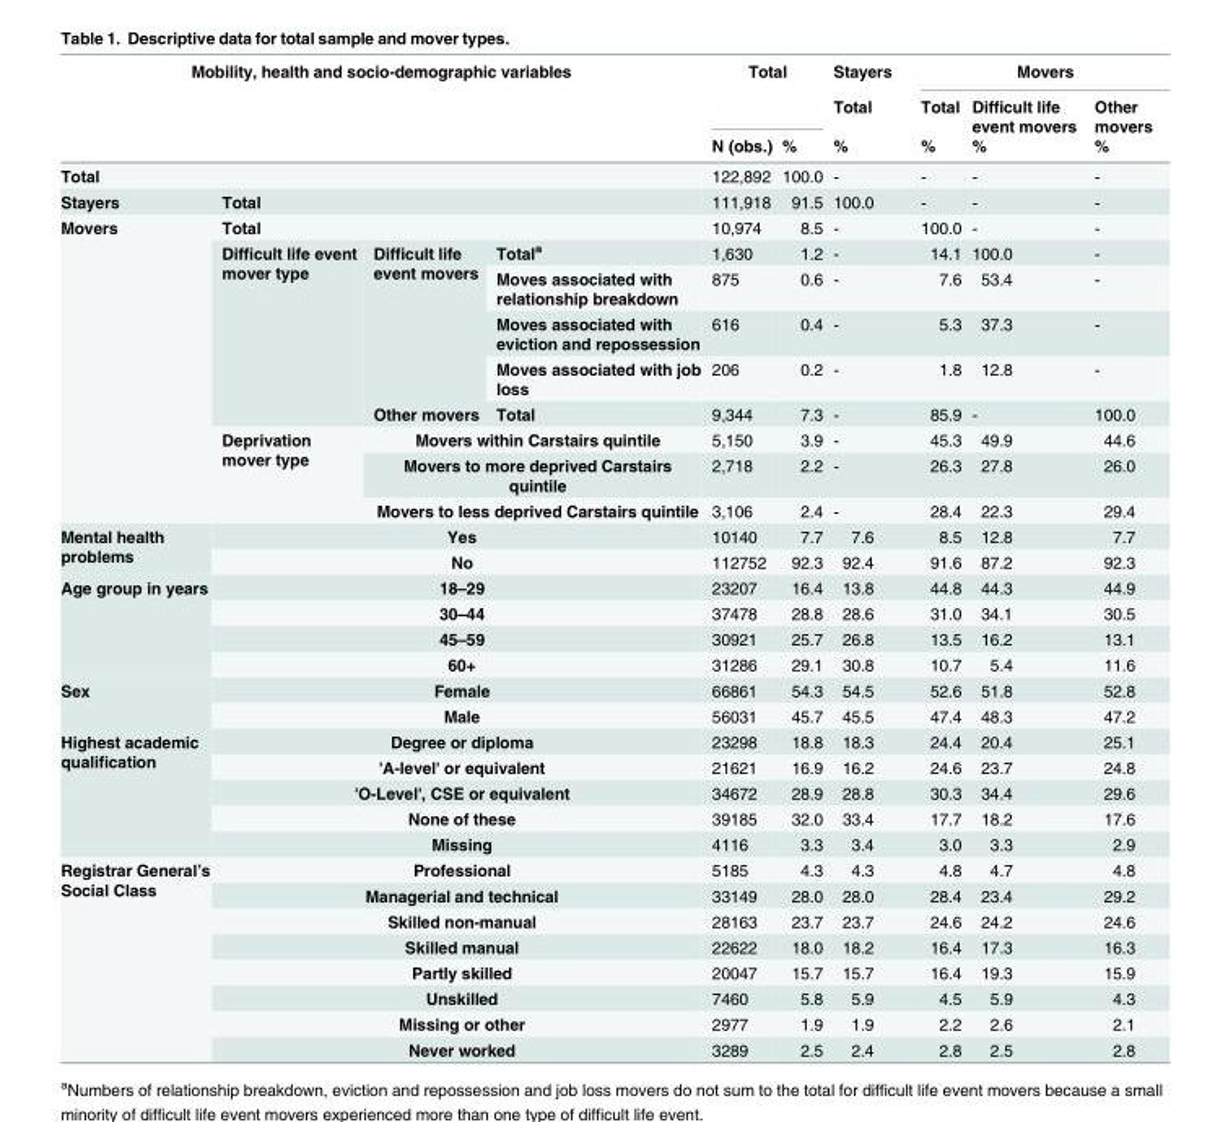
<table><thead><tr><td rowspan="3" colspan="4">Mobility, health and socio-demographic variables</td><td rowspan="2" colspan="2">Total</td><td rowspan="3">Stayers Total %</td><td colspan="3">Movers</td></tr><tr><td rowspan="2">Total %</td><td rowspan="2">Difficult life event movers %</td><td rowspan="2">Other movers %</td></tr><tr><td>N (obs.)</td><td>%</td></tr></thead><tbody><tr><td colspan="4">Total</td><td>122,892</td><td>100.0</td><td>-</td><td>-</td><td>-</td><td>-</td></tr><tr><td>Stayers</td><td colspan="3">Total</td><td>111,918</td><td>91.5</td><td>100.0</td><td>-</td><td>-</td><td>-</td></tr><tr><td rowspan="9">Movers</td><td colspan="3">Total</td><td>10,974</td><td>8.5</td><td>-</td><td>100.0</td><td>-</td><td>-</td></tr><tr><td rowspan="5">Difficult life event mover type</td><td rowspan="4">Difficult life event movers</td><td>Total<sup>a</sup></td><td>1,630</td><td>1.2</td><td>-</td><td>14.1</td><td>100.0</td><td>-</td></tr><tr><td>Moves associated with relationship breakdown</td><td>875</td><td>0.6</td><td>-</td><td>7.6</td><td>53.4</td><td>-</td></tr><tr><td>Moves associated with eviction and repossession</td><td>616</td><td>0.4</td><td>-</td><td>5.3</td><td>37.3</td><td>-</td></tr><tr><td>Moves associated with job loss</td><td>206</td><td>0.2</td><td>-</td><td>1.8</td><td>12.8</td><td>-</td></tr><tr><td>Other movers</td><td>Total</td><td>9,344</td><td>7.3</td><td>-</td><td>85.9</td><td>-</td><td>100.0</td></tr><tr><td rowspan="3">Deprivation mover type</td><td colspan="2">Movers within Carstairs quintile</td><td>5,150</td><td>3.9</td><td>-</td><td>45.3</td><td>49.9</td><td>44.6</td></tr><tr><td colspan="2">Movers to more deprived Carstairs quintile</td><td>2,718</td><td>2.2</td><td>-</td><td>26.3</td><td>27.8</td><td>26.0</td></tr><tr><td colspan="2">Movers to less deprived Carstairs quintile</td><td>3,106</td><td>2.4</td><td>-</td><td>28.4</td><td>22.3</td><td>29.4</td></tr><tr><td rowspan="2">Mental health problems</td><td colspan="3">Yes</td><td>10140</td><td>7.7</td><td>7.6</td><td>8.5</td><td>12.8</td><td>7.7</td></tr><tr><td colspan="3">No</td><td>112752</td><td>92.3</td><td>92.4</td><td>91.6</td><td>87.2</td><td>92.3</td></tr><tr><td rowspan="4">Age group in years</td><td colspan="3">18–29</td><td>23207</td><td>16.4</td><td>13.8</td><td>44.8</td><td>44.3</td><td>44.9</td></tr><tr><td colspan="3">30–44</td><td>37478</td><td>28.8</td><td>28.6</td><td>31.0</td><td>34.1</td><td>30.5</td></tr><tr><td colspan="3">45–59</td><td>30921</td><td>25.7</td><td>26.8</td><td>13.5</td><td>16.2</td><td>13.1</td></tr><tr><td colspan="3">60+</td><td>31286</td><td>29.1</td><td>30.8</td><td>10.7</td><td>5.4</td><td>11.6</td></tr><tr><td rowspan="2">Sex</td><td colspan="3">Female</td><td>66861</td><td>54.3</td><td>54.5</td><td>52.6</td><td>51.8</td><td>52.8</td></tr><tr><td colspan="3">Male</td><td>56031</td><td>45.7</td><td>45.5</td><td>47.4</td><td>48.3</td><td>47.2</td></tr><tr><td rowspan="5">Highest academic qualification</td><td colspan="3">Degree or diploma</td><td>23298</td><td>18.8</td><td>18.3</td><td>24.4</td><td>20.4</td><td>25.1</td></tr><tr><td colspan="3">&#x27;A-level&#x27; or equivalent</td><td>21621</td><td>16.9</td><td>16.2</td><td>24.6</td><td>23.7</td><td>24.8</td></tr><tr><td colspan="3">&#x27;O-Level&#x27;, CSE or equivalent</td><td>34672</td><td>28.9</td><td>28.8</td><td>30.3</td><td>34.4</td><td>29.6</td></tr><tr><td colspan="3">None of these</td><td>39185</td><td>32.0</td><td>33.4</td><td>17.7</td><td>18.2</td><td>17.6</td></tr><tr><td colspan="3">Missing</td><td>4116</td><td>3.3</td><td>3.4</td><td>3.0</td><td>3.3</td><td>2.9</td></tr><tr><td rowspan="8">Registrar General’s Social Class</td><td colspan="3">Professional</td><td>5185</td><td>4.3</td><td>4.3</td><td>4.8</td><td>4.7</td><td>4.8</td></tr><tr><td colspan="3">Managerial and technical</td><td>33149</td><td>28.0</td><td>28.0</td><td>28.4</td><td>23.4</td><td>29.2</td></tr><tr><td colspan="3">Skilled non-manual</td><td>28163</td><td>23.7</td><td>23.7</td><td>24.6</td><td>24.2</td><td>24.6</td></tr><tr><td colspan="3">Skilled manual</td><td>22622</td><td>18.0</td><td>18.2</td><td>16.4</td><td>17.3</td><td>16.3</td></tr><tr><td colspan="3">Partly skilled</td><td>20047</td><td>15.7</td><td>15.7</td><td>16.4</td><td>19.3</td><td>15.9</td></tr><tr><td colspan="3">Unskilled</td><td>7460</td><td>5.8</td><td>5.9</td><td>4.5</td><td>5.9</td><td>4.3</td></tr><tr><td colspan="3">Missing or other</td><td>2977</td><td>1.9</td><td>1.9</td><td>2.2</td><td>2.6</td><td>2.1</td></tr><tr><td colspan="3">Never worked</td><td>3289</td><td>2.5</td><td>2.4</td><td>2.8</td><td>2.5</td><td>2.8</td></tr></tbody></table>